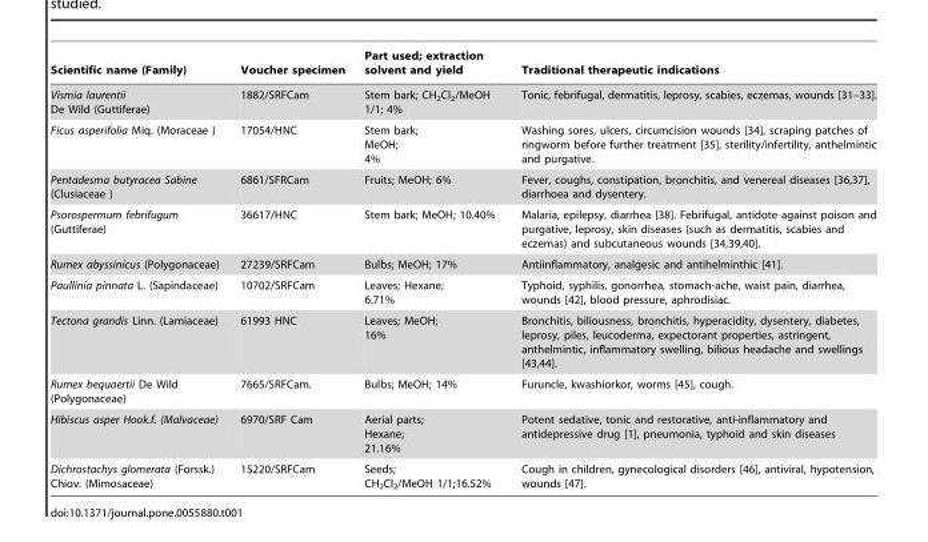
<table><thead><tr><td>Scientific name (Family)</td><td>Voucher specimen</td><td>Part used; extraction solvent and yield</td><td>Traditional therapeutic indications</td></tr></thead><tbody><tr><td>Vismia laurentii De Wild (Guttiferae)</td><td>1882/SRFCam</td><td>Stem bark; CH<sub>2</sub>Cl<sub>2</sub>/MeOH 1/1; 4%</td><td>Tonic, febrifugal, dermatitis, leprosy, scabies, eczemas, wounds [31–33].</td></tr><tr><td>Ficus asperifolia Miq. (Moraceae )</td><td>17054/HNC</td><td>Stem bark; MeOH; 4%</td><td>Washing sores, ulcers, circumcision wounds [34], scraping patches of ringworm before further treatment [35], sterility/infertility, anthelmintic and purgative.</td></tr><tr><td>Pentadesma butyracea Sabine (Clusiaceae )</td><td>6861/SFRCam</td><td>Fruits; MeOH; 6%</td><td>Fever, coughs, constipation, bronchitis, and venereal diseases [36,37], diarrhoea and dysentery.</td></tr><tr><td>Psorospermum febrifugum (Guttiferae)</td><td>36617/HNC</td><td>Stem bark; MeOH; 10.40%</td><td>Malaria, epilepsy, diarrhea [38]. Febrifugal, antidote against poison and purgative, leprosy, skin diseases (such as dermatitis, scabies and eczemas) and subcutaneous wounds [34,39,40].</td></tr><tr><td>Rumex abyssinicus (Polygonaceae)</td><td>27239/SRFCam</td><td>Bulbs; MeOH; 17%</td><td>Antiinflammatory, analgesic and antihelminthic [41].</td></tr><tr><td>Paullinia pinnata L. (Sapindaceae)</td><td>10702/SRFCam</td><td>Leaves; Hexane; 6.71%</td><td>Typhoid, syphilis, gonorrhea, stomach-ache, waist pain, diarrhea, wounds [42], blood pressure, aphrodisiac.</td></tr><tr><td>Tectona grandis Linn. (Lamiaceae)</td><td>61993 HNC</td><td>Leaves; MeOH; 16%</td><td>Bronchitis, biliousness, bronchitis, hyperacidity, dysentery, diabetes, leprosy, piles, leucoderma, expectorant properties, astringent, anthelmintic, inflammatory swelling, bilious headache and swellings [43,44].</td></tr><tr><td>Rumex bequaertii De Wild (Polygonaceae)</td><td>7665/SRFCam.</td><td>Bulbs; MeOH; 14%</td><td>Furuncle, kwashiorkor, worms [45], cough.</td></tr><tr><td>Hibiscus asper Hook.f. (Malvaceae)</td><td>6970/SRF Cam</td><td>Aerial parts; Hexane; 21.16%</td><td>Potent sedative, tonic and restorative, anti-inflammatory and antidepressive drug [1], pneumonia, typhoid and skin diseases</td></tr><tr><td>Dichrostachys glomerata (Forssk.) Chiov. (Mimosaceae)</td><td>15220/SRFCam</td><td>Seeds; CH<sub>2</sub>Cl<sub>2</sub>/MeOH 1/1;16.52%</td><td>Cough in children, gynecological disorders [46], antiviral, hypotension, wounds [47].</td></tr></tbody></table>